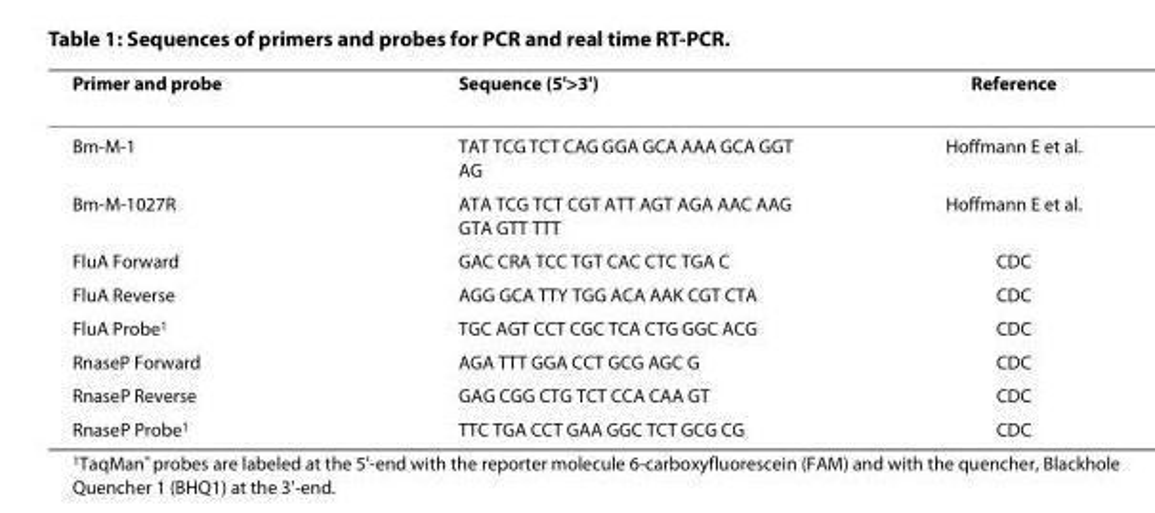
<table><thead><tr><td>Primer and probe</td><td>Sequence (5&#x27;&gt;3&#x27;)</td><td>Reference</td></tr></thead><tbody><tr><td>Bm-M-1</td><td>TAT TCG TCT CAG GGA GCA AAA GCA GGT AG</td><td>Hoffmann E et al.</td></tr><tr><td>Bm-M-1027R</td><td>ATA TCG TCT CGT ATT AGT AGA AAC AAG GTA GTT TTT</td><td>Hoffmann E et al.</td></tr><tr><td>FluA Forward</td><td>GAC CRA TCC TGT CAC CTC TGA C</td><td>CDC</td></tr><tr><td>FluA Reverse</td><td>AGG GCA TTY TGG ACA AAK CGT CTA</td><td>CDC</td></tr><tr><td>FluA Probe<sup>1</sup></td><td>TGC AGT CCT CGC TCA CTG GGC ACG</td><td>CDC</td></tr><tr><td>RnaseP Forward</td><td>AGA TTT GGA CCT GCG AGC G</td><td>CDC</td></tr><tr><td>RnaseP Reverse</td><td>GAG CGG CTG TCT CCA CAA GT</td><td>CDC</td></tr><tr><td>RnaseP Probe<sup>1</sup></td><td>TTC TGA CCT GAA GGC TCT GCG CG</td><td>CDC</td></tr></tbody></table>